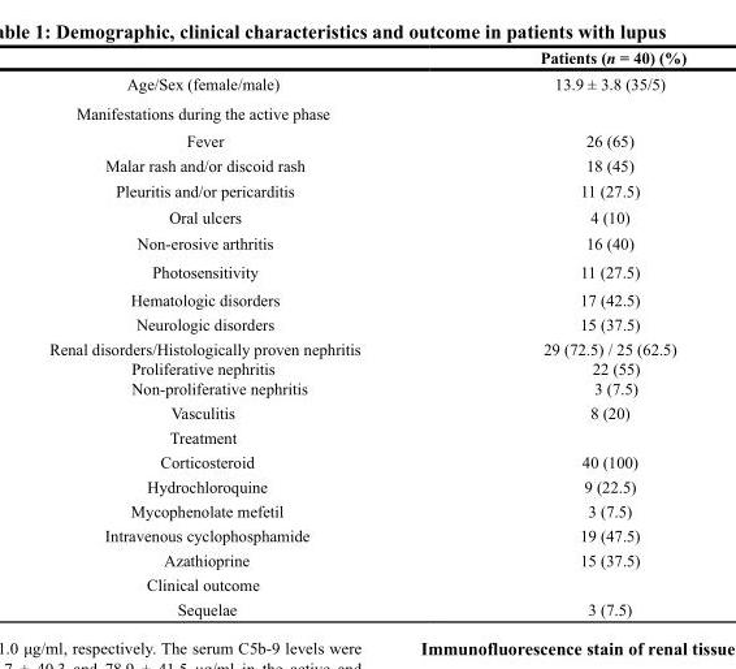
<table><thead><tr><td></td><td>Patients (n = 40) (%)</td></tr></thead><tbody><tr><td>Age/Sex (female/male)</td><td>13.9 ± 3.8 (35/5)</td></tr><tr><td colspan="2">Manifestations during the active phase</td></tr><tr><td>Fever</td><td>26 (65)</td></tr><tr><td>Malar rash and/or discoid rash</td><td>18 (45)</td></tr><tr><td>Pleuritis and/or pericarditis</td><td>11 (27.5)</td></tr><tr><td>Oral ulcers</td><td>4 (10)</td></tr><tr><td>Non-erosive arthritis</td><td>16 (40)</td></tr><tr><td>Photosensitivity</td><td>11 (27.5)</td></tr><tr><td>Hematologic disorders</td><td>17 (42.5)</td></tr><tr><td>Neurologic disorders</td><td>15 (37.5)</td></tr><tr><td>Renal disorders/Histologically proven nephritis</td><td>29 (72.5) / 25 (62.5)</td></tr><tr><td>Proliferative nephritis</td><td>22 (55)</td></tr><tr><td>Non-proliferative nephritis</td><td>3 (7.5)</td></tr><tr><td>Vasculitis</td><td>8 (20)</td></tr><tr><td colspan="2">Treatment</td></tr><tr><td>Corticosteroid</td><td>40 (100)</td></tr><tr><td>Hydrochloroquine</td><td>9 (22.5)</td></tr><tr><td>Mycophenolate mefetil</td><td>3 (7.5)</td></tr><tr><td>Intravenous cyclophosphamide</td><td>19 (47.5)</td></tr><tr><td>Azathioprine</td><td>15 (37.5)</td></tr><tr><td colspan="2">Clinical outcome</td></tr><tr><td>Sequelae</td><td>3 (7.5)</td></tr></tbody></table>